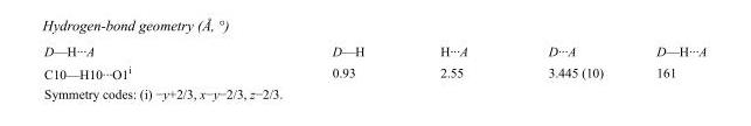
<table><tbody><tr><td>D—H···A</td><td>D—H</td><td>H···A</td><td>D···A</td><td>D—H···A</td></tr><tr><td>C10—H10···O1<sup>i</sup></td><td>0.93</td><td>2.55</td><td>3.445 (10)</td><td>161</td></tr></tbody></table>